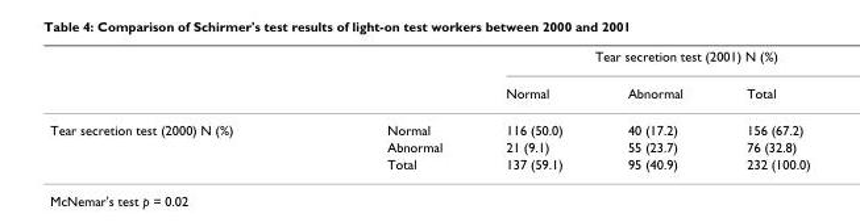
<table><thead><tr><td rowspan="2"></td><td rowspan="2"></td><td colspan="3">Tear secretion test (2001) N (%)</td></tr><tr><td>Normal</td><td>Abnormal</td><td>Total</td></tr></thead><tbody><tr><td rowspan="3">Tear secretion test (2000) N (%)</td><td>Normal</td><td>116 (50.0)</td><td>40 (17.2)</td><td>156 (67.2)</td></tr><tr><td>Abnormal</td><td>21 (9.1)</td><td>55 (23.7)</td><td>76 (32.8)</td></tr><tr><td>Total</td><td>137 (59.1)</td><td>95 (40.9)</td><td>232 (100.0)</td></tr></tbody></table>